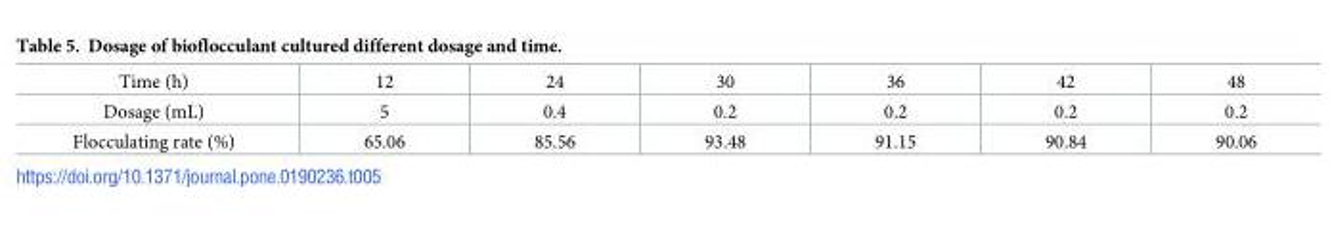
<table><tbody><tr><td>Time (h)</td><td>12</td><td>24</td><td>30</td><td>36</td><td>42</td><td>48</td></tr><tr><td>Dosage (mL)</td><td>5</td><td>0.4</td><td>0.2</td><td>0.2</td><td>0.2</td><td>0.2</td></tr><tr><td>Flocculating rate (%)</td><td>65.06</td><td>85.56</td><td>93.48</td><td>91.15</td><td>90.84</td><td>90.06</td></tr></tbody></table>